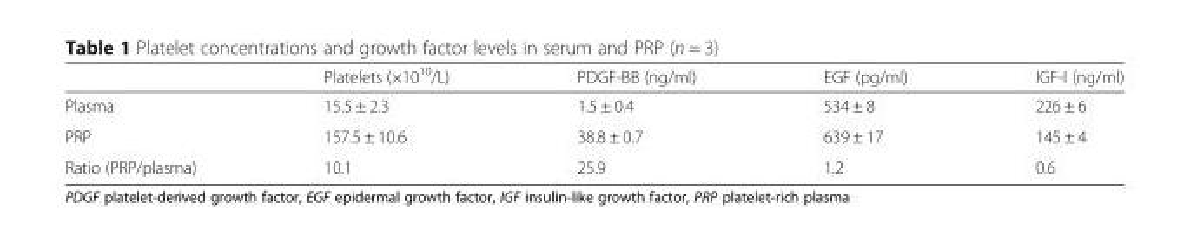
<table><thead><tr><td></td><td>Platelets (×10<sup>10</sup>/L)</td><td>PDGF-BB (ng/ml)</td><td>EGF (pg/ml)</td><td>IGF-I (ng/ml)</td></tr></thead><tbody><tr><td>Plasma</td><td>15.5 ± 2.3</td><td>1.5 ± 0.4</td><td>534 ± 8</td><td>226 ± 6</td></tr><tr><td>PRP</td><td>157.5 ± 10.6</td><td>38.8 ± 0.7</td><td>639 ± 17</td><td>145 ± 4</td></tr><tr><td>Ratio (PRP/plasma)</td><td>10.1</td><td>25.9</td><td>1.2</td><td>0.6</td></tr></tbody></table>